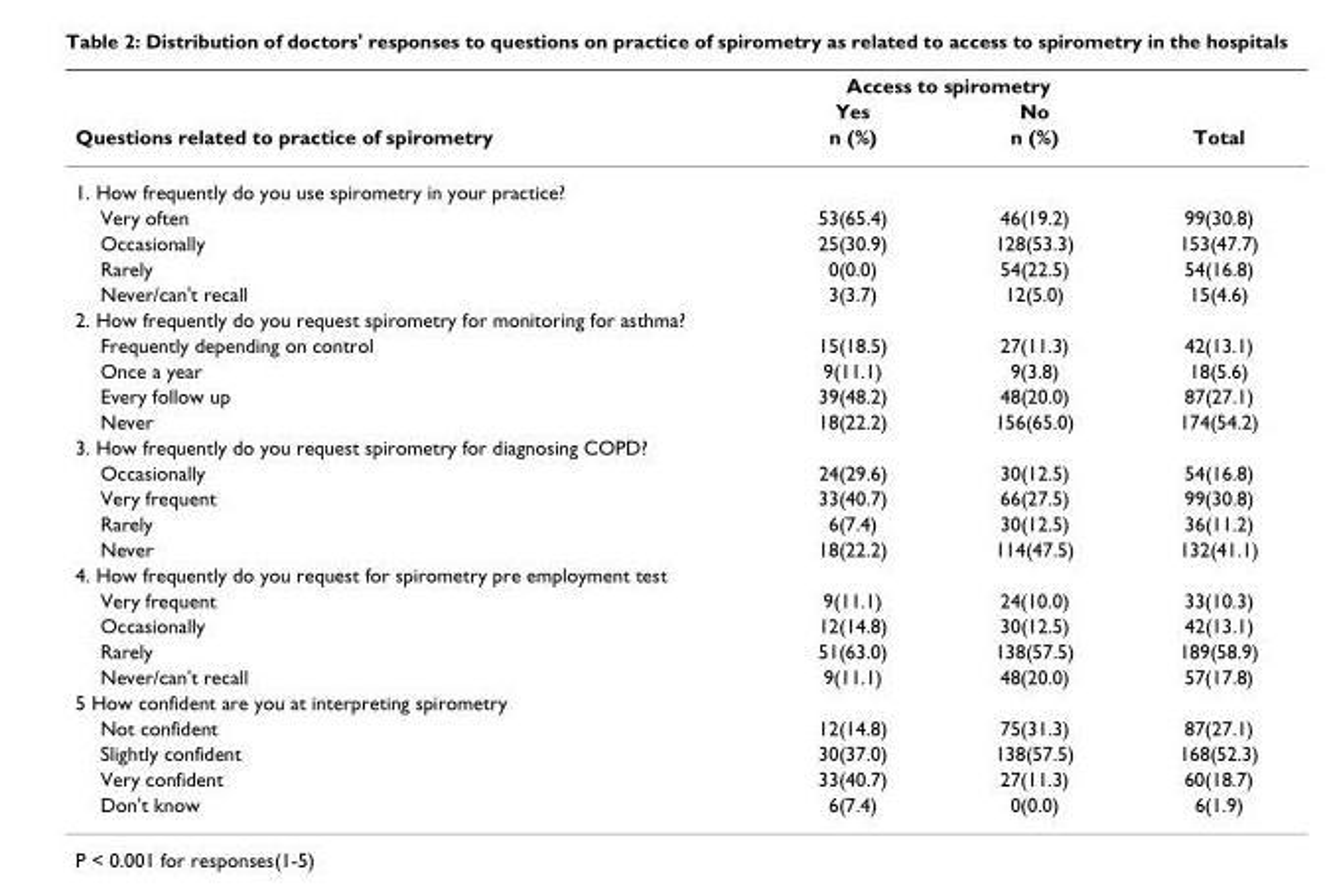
<table><thead><tr><td rowspan="3">Questions related to practice of spirometry</td><td colspan="2">Access to spirometry</td><td rowspan="3">Total</td></tr><tr><td rowspan="2">Yes n (%)</td><td rowspan="2">No n (%)</td></tr><tr></tr></thead><tbody><tr><td colspan="4">1. How frequently do you use spirometry in your practice?</td></tr><tr><td>Very often</td><td>53(65.4)</td><td>46(19.2)</td><td>99(30.8)</td></tr><tr><td>Occasionally</td><td>25(30.9)</td><td>128(53.3)</td><td>153(47.7)</td></tr><tr><td>Rarely</td><td>0(0.0)</td><td>54(22.5)</td><td>54(16.8)</td></tr><tr><td>Never/can&#x27;t recall</td><td>3(3.7)</td><td>12(5.0)</td><td>15(4.6)</td></tr><tr><td colspan="4">2. How frequently do you request spirometry for monitoring for asthma?</td></tr><tr><td>Frequently depending on control</td><td>15(18.5)</td><td>27(11.3)</td><td>42(13.1)</td></tr><tr><td>Once a year</td><td>9(11.1)</td><td>9(3.8)</td><td>18(5.6)</td></tr><tr><td>Every follow up</td><td>39(48.2)</td><td>48(20.0)</td><td>87(27.1)</td></tr><tr><td>Never</td><td>18(22.2)</td><td>156(65.0)</td><td>174(54.2)</td></tr><tr><td colspan="4">3. How frequently do you request spirometry for diagnosing COPD?</td></tr><tr><td>Occasionally</td><td>24(29.6)</td><td>30(12.5)</td><td>54(16.8)</td></tr><tr><td>Very frequent</td><td>33(40.7)</td><td>66(27.5)</td><td>99(30.8)</td></tr><tr><td>Rarely</td><td>6(7.4)</td><td>30(12.5)</td><td>36(11.2)</td></tr><tr><td>Never</td><td>18(22.2)</td><td>114(47.5)</td><td>132(41.1)</td></tr><tr><td colspan="4">4. How frequently do you request for spirometry pre employment test</td></tr><tr><td>Very frequent</td><td>9(11.1)</td><td>24(10.0)</td><td>33(10.3)</td></tr><tr><td>Occasionally</td><td>12(14.8)</td><td>30(12.5)</td><td>42(13.1)</td></tr><tr><td>Rarely</td><td>51(63.0)</td><td>138(57.5)</td><td>189(58.9)</td></tr><tr><td>Never/can&#x27;t recall</td><td>9(11.1)</td><td>48(20.0)</td><td>57(17.8)</td></tr><tr><td colspan="4">5 How confident are you at interpreting spirometry</td></tr><tr><td>Not confident</td><td>12(14.8)</td><td>75(31.3)</td><td>87(27.1)</td></tr><tr><td>Slightly confident</td><td>30(37.0)</td><td>138(57.5)</td><td>168(52.3)</td></tr><tr><td>Very confident</td><td>33(40.7)</td><td>27(11.3)</td><td>60(18.7)</td></tr><tr><td>Don&#x27;t know</td><td>6(7.4)</td><td>0(0.0)</td><td>6(1.9)</td></tr></tbody></table>